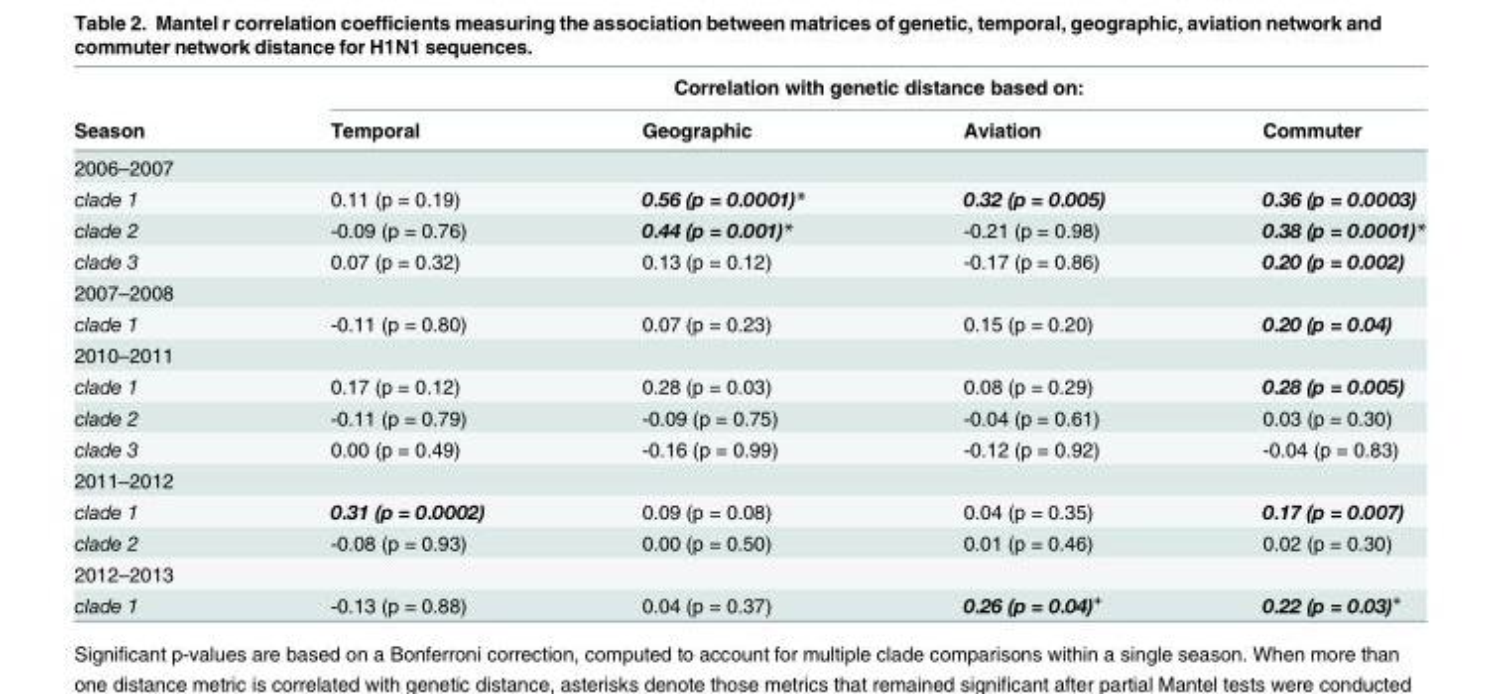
<table><thead><tr><td rowspan="2">Season</td><td colspan="4">Correlation with genetic distance based on:</td></tr><tr><td>Temporal</td><td>Geographic</td><td>Aviation</td><td>Commuter</td></tr></thead><tbody><tr><td colspan="5">2006–2007</td></tr><tr><td>clade 1</td><td>0.11 (p = 0.19)</td><td>0.56 (p = 0.0001)*</td><td>0.32 (p = 0.005)</td><td>0.36 (p = 0.0003)</td></tr><tr><td>clade 2</td><td>-0.09 (p = 0.76)</td><td>0.44 (p = 0.001)*</td><td>-0.21 (p = 0.98)</td><td>0.38 (p = 0.0001)*</td></tr><tr><td>clade 3</td><td>0.07 (p = 0.32)</td><td>0.13 (p = 0.12)</td><td>-0.17 (p = 0.86)</td><td>0.20 (p = 0.002)</td></tr><tr><td colspan="5">2007–2008</td></tr><tr><td>clade 1</td><td>-0.11 (p = 0.80)</td><td>0.07 (p = 0.23)</td><td>0.15 (p = 0.20)</td><td>0.20 (p = 0.04)</td></tr><tr><td colspan="5">2010–2011</td></tr><tr><td>clade 1</td><td>0.17 (p = 0.12)</td><td>0.28 (p = 0.03)</td><td>0.08 (p = 0.29)</td><td>0.28 (p = 0.005)</td></tr><tr><td>clade 2</td><td>-0.11 (p = 0.79)</td><td>-0.09 (p = 0.75)</td><td>-0.04 (p = 0.61)</td><td>0.03 (p = 0.30)</td></tr><tr><td>clade 3</td><td>0.00 (p = 0.49)</td><td>-0.16 (p = 0.99)</td><td>-0.12 (p = 0.92)</td><td>-0.04 (p = 0.83)</td></tr><tr><td colspan="5">2011–2012</td></tr><tr><td>clade 1</td><td>0.31 (p = 0.0002)</td><td>0.09 (p = 0.08)</td><td>0.04 (p = 0.35)</td><td>0.17 (p = 0.007)</td></tr><tr><td>clade 2</td><td>-0.08 (p = 0.93)</td><td>0.00 (p = 0.50)</td><td>0.01 (p = 0.46)</td><td>0.02 (p = 0.30)</td></tr><tr><td colspan="5">2012–2013</td></tr><tr><td>clade 1</td><td>-0.13 (p = 0.88)</td><td>0.04 (p = 0.37)</td><td>0.26 (p = 0.04)<sup>+</sup></td><td>0.22 (p = 0.03)<sup>+</sup></td></tr></tbody></table>